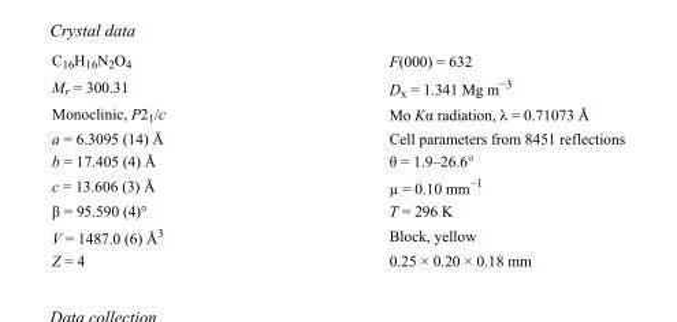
<table><tbody><tr><td>C<sub>16</sub>H<sub>16</sub>N<sub>2</sub>O<sub>4</sub></td><td>F(000) = 632</td></tr><tr><td>M<sub>r</sub> = 300.31</td><td>D<sub>x</sub> = 1.341 Mg m<sup>−3</sup></td></tr><tr><td>Monoclinic, P2<sub>1</sub>/c</td><td>Mo Kα radiation, λ = 0.71073 Å</td></tr><tr><td>a = 6.3095 (14) Å</td><td>Cell parameters from 8451 reflections</td></tr><tr><td>b = 17.405 (4) Å</td><td>θ = 1.9–26.6°</td></tr><tr><td>c = 13.606 (3) Å</td><td>µ = 0.10 mm<sup>−1</sup></td></tr><tr><td>β = 95.590 (4)°</td><td>T = 296 K</td></tr><tr><td>V = 1487.0 (6) Å<sup>3</sup></td><td>Block, yellow</td></tr><tr><td>Z = 4</td><td>0.25 × 0.20 × 0.18 mm</td></tr></tbody></table>